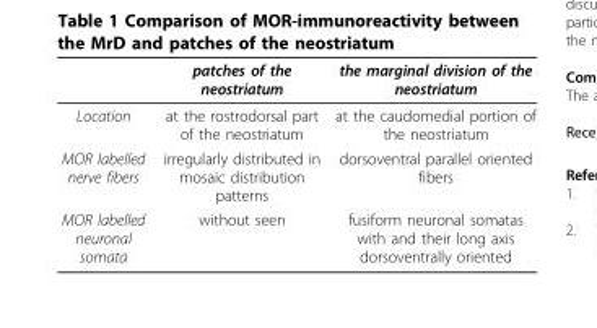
<table><thead><tr><td></td><td>patches of the neostriatum</td><td>the marginal division of the neostriatum</td></tr></thead><tbody><tr><td>Location</td><td>at the rostrodorsal part of the neostriatum</td><td>at the caudomedial portion of the neostriatum</td></tr><tr><td>MOR labelled nerve fibers</td><td>irregularly distributed in mosaic distribution patterns</td><td>dorsoventral parallel oriented fibers</td></tr><tr><td>MOR labelled neuronal somata</td><td>without seen</td><td>fusiform neuronal somatas with and their long axis dorsoventrally oriented</td></tr></tbody></table>